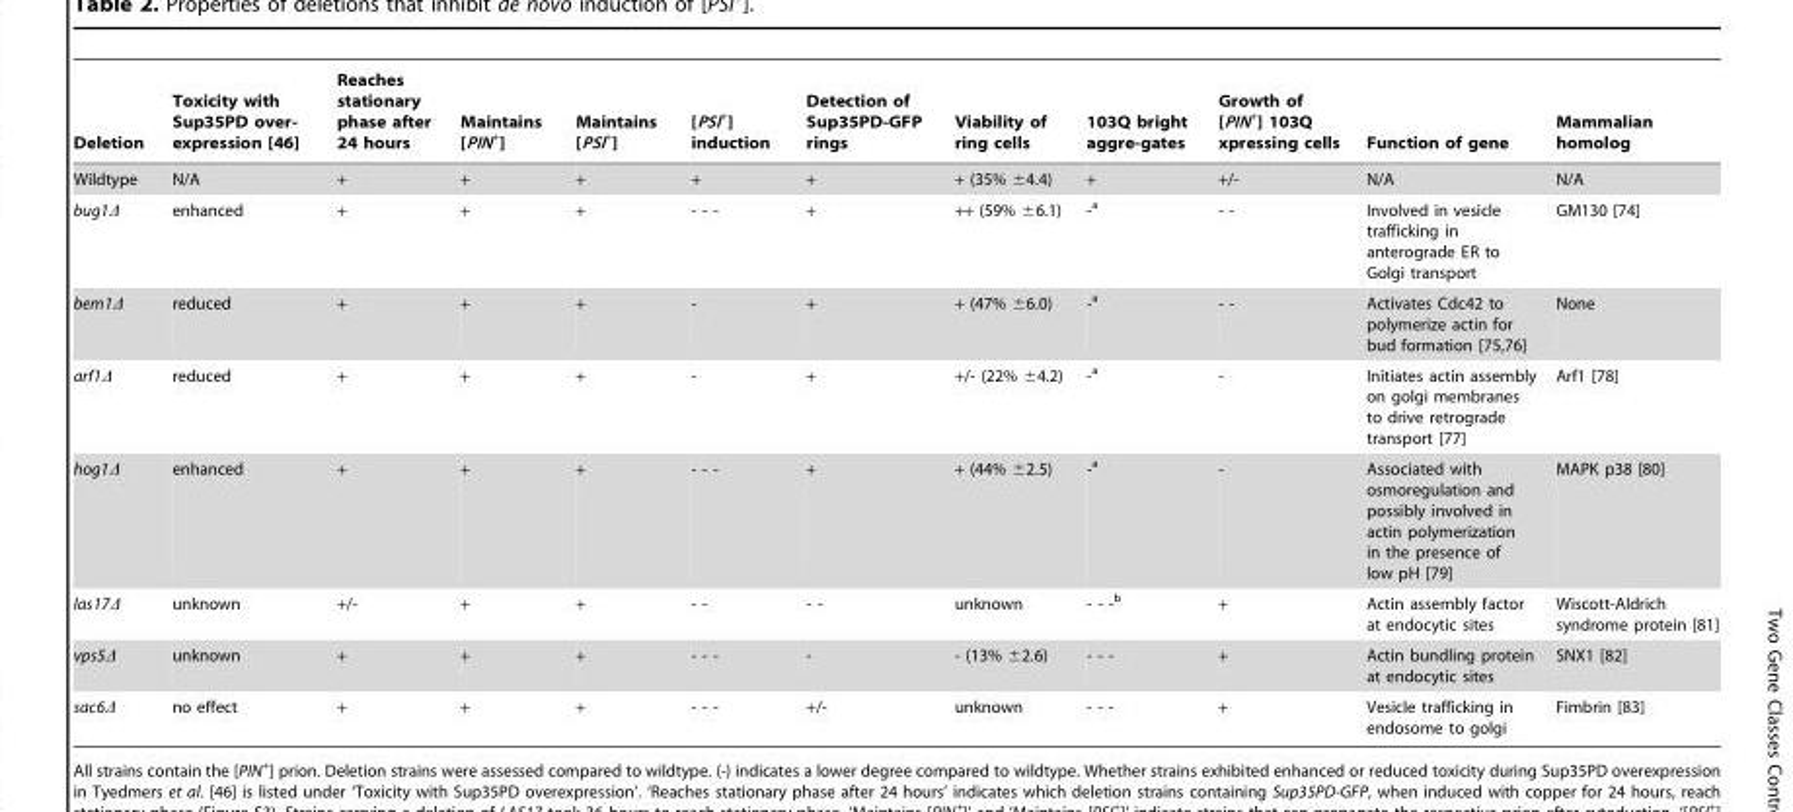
<table><thead><tr><td>Deletion</td><td>Toxicity with Sup35PD over- expression [46]</td><td>Reaches stationary phase after 24 hours</td><td>Maintains [PIN<sup>+</sup>]</td><td>Maintains [PSI<sup>+</sup>]</td><td>[PSI<sup>+</sup>] induction</td><td>Detection of Sup35PD-GFP rings</td><td>Viability of ring cells</td><td>103Q bright aggre-gates</td><td>Growth of [PIN<sup>+</sup>] 103Q xpressing cells</td><td>Function of gene</td><td>Mammalian homolog</td></tr></thead><tbody><tr><td>Wildtype</td><td>N/A</td><td>+</td><td>+</td><td>+</td><td>+</td><td>+</td><td>+ (35% ±4.4)</td><td>+</td><td>+/-</td><td>N/A</td><td>N/A</td></tr><tr><td>bug1Δ</td><td>enhanced</td><td>+</td><td>+</td><td>+</td><td>- - -</td><td>+</td><td>++ (59% ±6.1)</td><td>-a</td><td>- -</td><td>Involved in vesicle trafficking in anterograde ER to Golgi transport</td><td>GM130 [74]</td></tr><tr><td>bem1Δ</td><td>reduced</td><td>+</td><td>+</td><td>+</td><td>-</td><td>+</td><td>+ (47% ±6.0)</td><td>-a</td><td>- -</td><td>Activates Cdc42 to polymerize actin for bud formation [75,76]</td><td>None</td></tr><tr><td>arf1Δ</td><td>reduced</td><td>+</td><td>+</td><td>+</td><td>-</td><td>+</td><td>+/- (22% ±4.2)</td><td>-a</td><td>-</td><td>Initiates actin assembly on golgi membranes to drive retrograde transport [77]</td><td>Arf1 [78]</td></tr><tr><td>hog1Δ</td><td>enhanced</td><td>+</td><td>+</td><td>+</td><td>- - -</td><td>+</td><td>+ (44% ±2.5)</td><td>-a</td><td>-</td><td>Associated with osmoregulation and possibly involved in actin polymerization in the presence of low pH [79]</td><td>MAPK p38 [80]</td></tr><tr><td>las17Δ</td><td>unknown</td><td>+/-</td><td>+</td><td>+</td><td>- -</td><td>- -</td><td>unknown</td><td>- - -b</td><td>+</td><td>Actin assembly factor at endocytic sites</td><td>Wiscott-Aldrich syndrome protein [81]</td></tr><tr><td>vps5Δ</td><td>unknown</td><td>+</td><td>+</td><td>+</td><td>- - -</td><td>-</td><td>- (13% ±2.6)</td><td>- - -</td><td>+</td><td>Actin bundling protein at endocytic sites</td><td>SNX1 [82]</td></tr><tr><td>sac6Δ</td><td>no effect</td><td>+</td><td>+</td><td>+</td><td>- - -</td><td>+/-</td><td>unknown</td><td>- - -</td><td>+</td><td>Vesicle trafficking in endosome to golgi</td><td>Fimbrin [83]</td></tr></tbody></table>